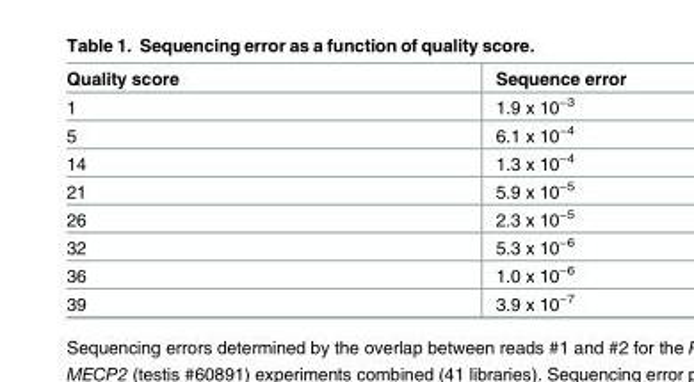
<table><thead><tr><td>Quality score</td><td>Sequence error</td></tr></thead><tbody><tr><td>1</td><td>1.9 x 10<sup>−3</sup></td></tr><tr><td>5</td><td>6.1 x 10<sup>−4</sup></td></tr><tr><td>14</td><td>1.3 x 10<sup>−4</sup></td></tr><tr><td>21</td><td>5.9 x 10<sup>−5</sup></td></tr><tr><td>26</td><td>2.3 x 10<sup>−5</sup></td></tr><tr><td>32</td><td>5.3 x 10<sup>−6</sup></td></tr><tr><td>36</td><td>1.0 x 10<sup>−6</sup></td></tr><tr><td>39</td><td>3.9 x 10<sup>−7</sup></td></tr></tbody></table>